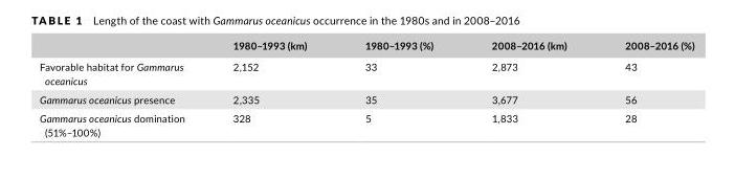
<table><thead><tr><td></td><td>1980–1993 (km)</td><td>1980–1993 (%)</td><td>2008–2016 (km)</td><td>2008–2016 (%)</td></tr></thead><tbody><tr><td>Favorable habitat for Gammarus oceanicus</td><td>2,152</td><td>33</td><td>2,873</td><td>43</td></tr><tr><td>Gammarus oceanicus presence</td><td>2,335</td><td>35</td><td>3,677</td><td>56</td></tr><tr><td>Gammarus oceanicus domination (51%–100%)</td><td>328</td><td>5</td><td>1,833</td><td>28</td></tr></tbody></table>